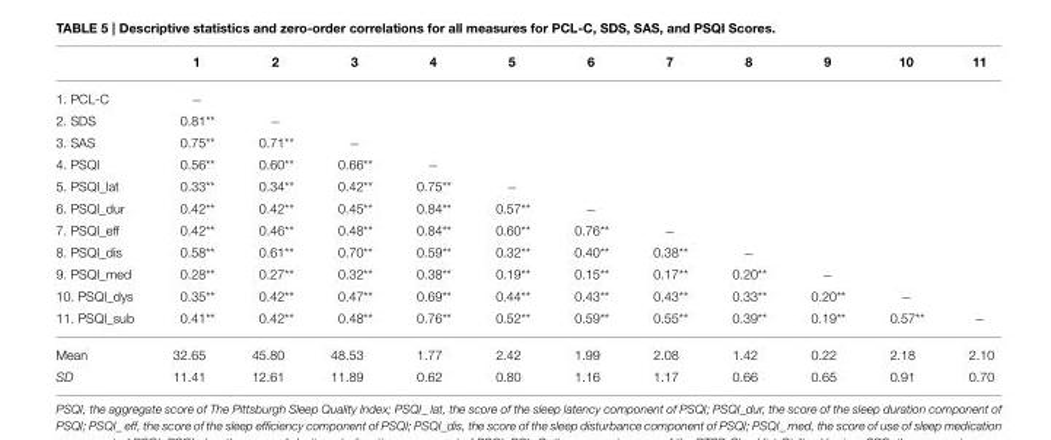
<table><thead><tr><td></td><td>1</td><td>2</td><td>3</td><td>4</td><td>5</td><td>6</td><td>7</td><td>8</td><td>9</td><td>10</td><td>11</td></tr></thead><tbody><tr><td>1. PCL-C</td><td>−</td><td></td><td></td><td></td><td></td><td></td><td></td><td></td><td></td><td></td><td></td></tr><tr><td>2. SDS</td><td>0.81**</td><td>−</td><td></td><td></td><td></td><td></td><td></td><td></td><td></td><td></td><td></td></tr><tr><td>3. SAS</td><td>0.75**</td><td>0.71**</td><td>−</td><td></td><td></td><td></td><td></td><td></td><td></td><td></td><td></td></tr><tr><td>4. PSQI</td><td>0.56**</td><td>0.60**</td><td>0.66**</td><td>−</td><td></td><td></td><td></td><td></td><td></td><td></td><td></td></tr><tr><td>5. PSQI_lat</td><td>0.33**</td><td>0.34**</td><td>0.42**</td><td>0.75**</td><td>−</td><td></td><td></td><td></td><td></td><td></td><td></td></tr><tr><td>6. PSQI_dur</td><td>0.42**</td><td>0.42**</td><td>0.45**</td><td>0.84**</td><td>0.57**</td><td>−</td><td></td><td></td><td></td><td></td><td></td></tr><tr><td>7. PSQI_eff</td><td>0.42**</td><td>0.46**</td><td>0.48**</td><td>0.84**</td><td>0.60**</td><td>0.76**</td><td>−</td><td></td><td></td><td></td><td></td></tr><tr><td>8. PSQI_dis</td><td>0.58**</td><td>0.61**</td><td>0.70**</td><td>0.59**</td><td>0.32**</td><td>0.40**</td><td>0.38**</td><td>−</td><td></td><td></td><td></td></tr><tr><td>9. PSQI_med</td><td>0.28**</td><td>0.27**</td><td>0.32**</td><td>0.38**</td><td>0.19**</td><td>0.15**</td><td>0.17**</td><td>0.20**</td><td>−</td><td></td><td></td></tr><tr><td>10. PSQI_dys</td><td>0.35**</td><td>0.42**</td><td>0.47**</td><td>0.69**</td><td>0.44**</td><td>0.43**</td><td>0.43**</td><td>0.33**</td><td>0.20**</td><td>−</td><td></td></tr><tr><td>11. PSQI_sub</td><td>0.41**</td><td>0.42**</td><td>0.48**</td><td>0.76**</td><td>0.52**</td><td>0.59**</td><td>0.55**</td><td>0.39**</td><td>0.19**</td><td>0.57**</td><td>−</td></tr><tr><td>Mean</td><td>32.65</td><td>45.80</td><td>48.53</td><td>1.77</td><td>2.42</td><td>1.99</td><td>2.08</td><td>1.42</td><td>0.22</td><td>2.18</td><td>2.10</td></tr><tr><td>SD</td><td>11.41</td><td>12.61</td><td>11.89</td><td>0.62</td><td>0.80</td><td>1.16</td><td>1.17</td><td>0.66</td><td>0.65</td><td>0.91</td><td>0.70</td></tr></tbody></table>